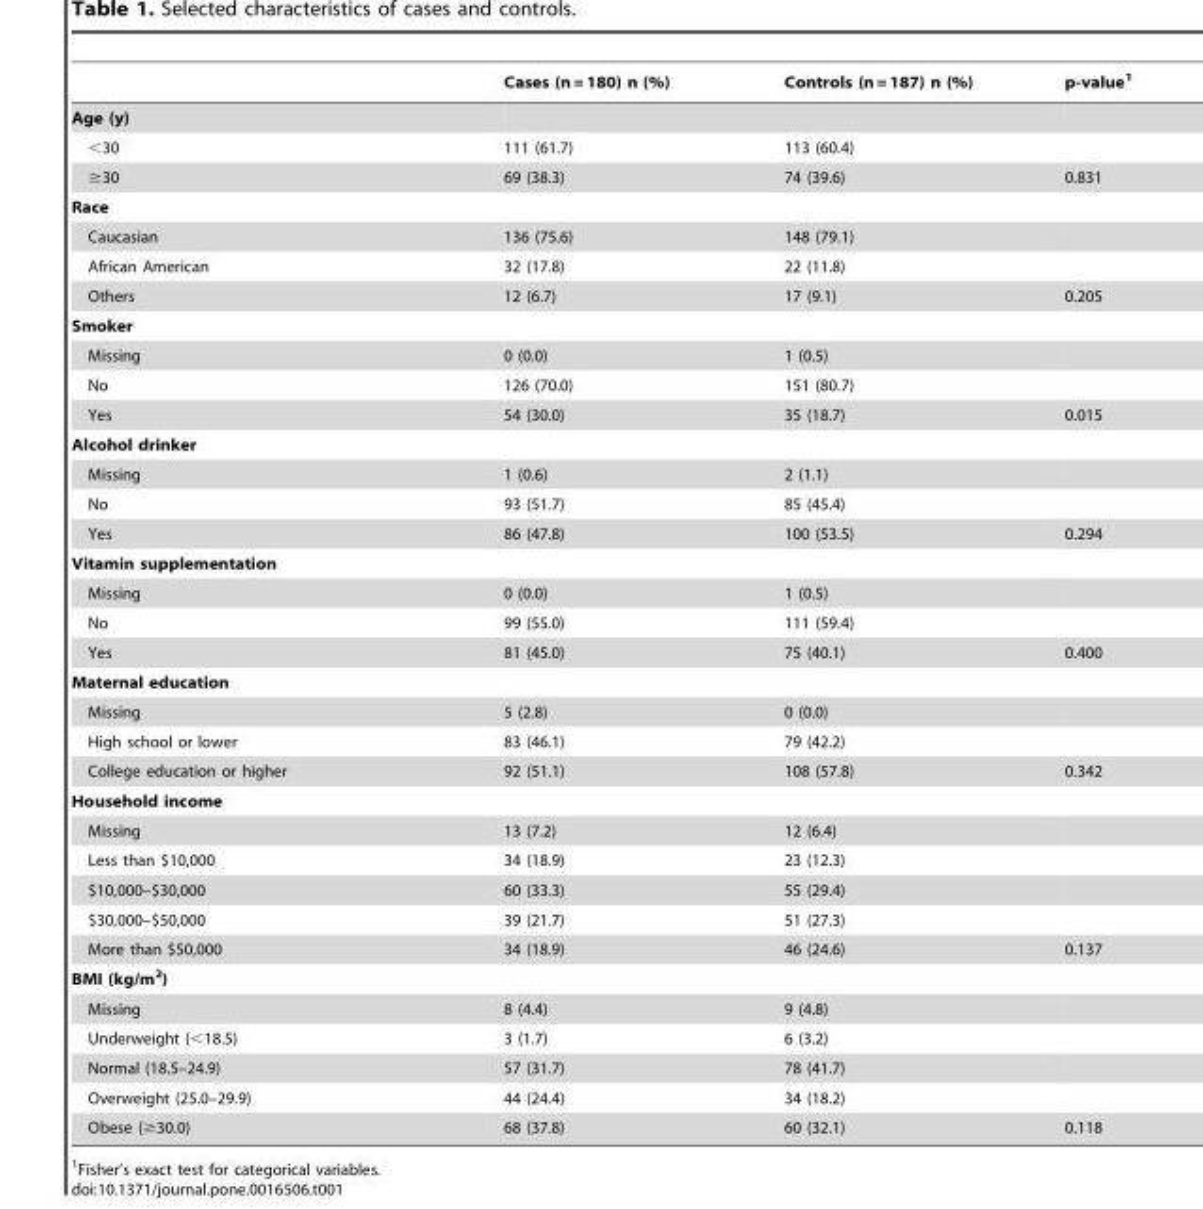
<table><thead><tr><td></td><td>Cases (n = 180) n (%)</td><td>Controls (n = 187) n (%)</td><td>p-value<sup>1</sup></td></tr></thead><tbody><tr><td colspan="4">Age (y)</td></tr><tr><td>&lt;30</td><td>111 (61.7)</td><td>113 (60.4)</td><td></td></tr><tr><td>≥30</td><td>69 (38.3)</td><td>74 (39.6)</td><td>0.831</td></tr><tr><td colspan="4">Race</td></tr><tr><td>Caucasian</td><td>136 (75.6)</td><td>148 (79.1)</td><td></td></tr><tr><td>African American</td><td>32 (17.8)</td><td>22 (11.8)</td><td></td></tr><tr><td>Others</td><td>12 (6.7)</td><td>17 (9.1)</td><td>0.205</td></tr><tr><td colspan="4">Smoker</td></tr><tr><td>Missing</td><td>0 (0.0)</td><td>1 (0.5)</td><td></td></tr><tr><td>No</td><td>126 (70.0)</td><td>151 (80.7)</td><td></td></tr><tr><td>Yes</td><td>54 (30.0)</td><td>35 (18.7)</td><td>0.015</td></tr><tr><td colspan="4">Alcohol drinker</td></tr><tr><td>Missing</td><td>1 (0.6)</td><td>2 (1.1)</td><td></td></tr><tr><td>No</td><td>93 (51.7)</td><td>85 (45.4)</td><td></td></tr><tr><td>Yes</td><td>86 (47.8)</td><td>100 (53.5)</td><td>0.294</td></tr><tr><td colspan="4">Vitamin supplementation</td></tr><tr><td>Missing</td><td>0 (0.0)</td><td>1 (0.5)</td><td></td></tr><tr><td>No</td><td>99 (55.0)</td><td>111 (59.4)</td><td></td></tr><tr><td>Yes</td><td>81 (45.0)</td><td>75 (40.1)</td><td>0.400</td></tr><tr><td colspan="4">Maternal education</td></tr><tr><td>Missing</td><td>5 (2.8)</td><td>0 (0.0)</td><td></td></tr><tr><td>High school or lower</td><td>83 (46.1)</td><td>79 (42.2)</td><td></td></tr><tr><td>College education or higher</td><td>92 (51.1)</td><td>108 (57.8)</td><td>0.342</td></tr><tr><td colspan="4">Household income</td></tr><tr><td>Missing</td><td>13 (7.2)</td><td>12 (6.4)</td><td></td></tr><tr><td>Less than $10,000</td><td>34 (18.9)</td><td>23 (12.3)</td><td></td></tr><tr><td>$10,000–$30,000</td><td>60 (33.3)</td><td>55 (29.4)</td><td></td></tr><tr><td>$30,000–$50,000</td><td>39 (21.7)</td><td>51 (27.3)</td><td></td></tr><tr><td>More than $50,000</td><td>34 (18.9)</td><td>46 (24.6)</td><td>0.137</td></tr><tr><td colspan="4">BMI (kg/m<sup>2</sup>)</td></tr><tr><td>Missing</td><td>8 (4.4)</td><td>9 (4.8)</td><td></td></tr><tr><td>Underweight (&lt;18.5)</td><td>3 (1.7)</td><td>6 (3.2)</td><td></td></tr><tr><td>Normal (18.5–24.9)</td><td>57 (31.7)</td><td>78 (41.7)</td><td></td></tr><tr><td>Overweight (25.0–29.9)</td><td>44 (24.4)</td><td>34 (18.2)</td><td></td></tr><tr><td>Obese (≥30.0)</td><td>68 (37.8)</td><td>60 (32.1)</td><td>0.118</td></tr></tbody></table>